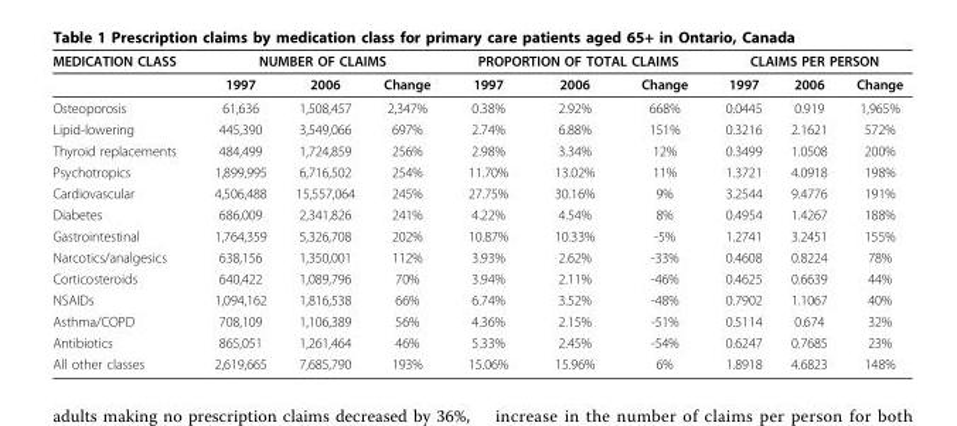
<table><thead><tr><td rowspan="2">MEDICATION CLASS</td><td colspan="3">NUMBER OF CLAIMS</td><td colspan="3">PROPORTION OF TOTAL CLAIMS</td><td colspan="3">CLAIMS PER PERSON</td></tr><tr><td>1997</td><td>2006</td><td>Change</td><td>1997</td><td>2006</td><td>Change</td><td>1997</td><td>2006</td><td>Change</td></tr></thead><tbody><tr><td>Osteoporosis</td><td>61,636</td><td>1,508,457</td><td>2,347%</td><td>0.38%</td><td>2.92%</td><td>668%</td><td>0.0445</td><td>0.919</td><td>1,965%</td></tr><tr><td>Lipid-lowering</td><td>445,390</td><td>3,549,066</td><td>697%</td><td>2.74%</td><td>6.88%</td><td>151%</td><td>0.3216</td><td>2.1621</td><td>572%</td></tr><tr><td>Thyroid replacements</td><td>484,499</td><td>1,724,859</td><td>256%</td><td>2.98%</td><td>3.34%</td><td>12%</td><td>0.3499</td><td>1.0508</td><td>200%</td></tr><tr><td>Psychotropics</td><td>1,899,995</td><td>6,716,502</td><td>254%</td><td>11.70%</td><td>13.02%</td><td>11%</td><td>1.3721</td><td>4.0918</td><td>198%</td></tr><tr><td>Cardiovascular</td><td>4,506,488</td><td>15,557,064</td><td>245%</td><td>27.75%</td><td>30.16%</td><td>9%</td><td>3.2544</td><td>9.4776</td><td>191%</td></tr><tr><td>Diabetes</td><td>686,009</td><td>2,341,826</td><td>241%</td><td>4.22%</td><td>4.54%</td><td>8%</td><td>0.4954</td><td>1.4267</td><td>188%</td></tr><tr><td>Gastrointestinal</td><td>1,764,359</td><td>5,326,708</td><td>202%</td><td>10.87%</td><td>10.33%</td><td>-5%</td><td>1.2741</td><td>3.2451</td><td>155%</td></tr><tr><td>Narcotics/analgesics</td><td>638,156</td><td>1,350,001</td><td>112%</td><td>3.93%</td><td>2.62%</td><td>-33%</td><td>0.4608</td><td>0.8224</td><td>78%</td></tr><tr><td>Corticosteroids</td><td>640,422</td><td>1,089,796</td><td>70%</td><td>3.94%</td><td>2.11%</td><td>-46%</td><td>0.4625</td><td>0.6639</td><td>44%</td></tr><tr><td>NSAIDs</td><td>1,094,162</td><td>1,816,538</td><td>66%</td><td>6.74%</td><td>3.52%</td><td>-48%</td><td>0.7902</td><td>1.1067</td><td>40%</td></tr><tr><td>Asthma/COPD</td><td>708,109</td><td>1,106,389</td><td>56%</td><td>4.36%</td><td>2.15%</td><td>-51%</td><td>0.5114</td><td>0.674</td><td>32%</td></tr><tr><td>Antibiotics</td><td>865,051</td><td>1,261,464</td><td>46%</td><td>5.33%</td><td>2.45%</td><td>-54%</td><td>0.6247</td><td>0.7685</td><td>23%</td></tr><tr><td>All other classes</td><td>2,619,665</td><td>7,685,790</td><td>193%</td><td>15.06%</td><td>15.96%</td><td>6%</td><td>1.8918</td><td>4.6823</td><td>148%</td></tr></tbody></table>